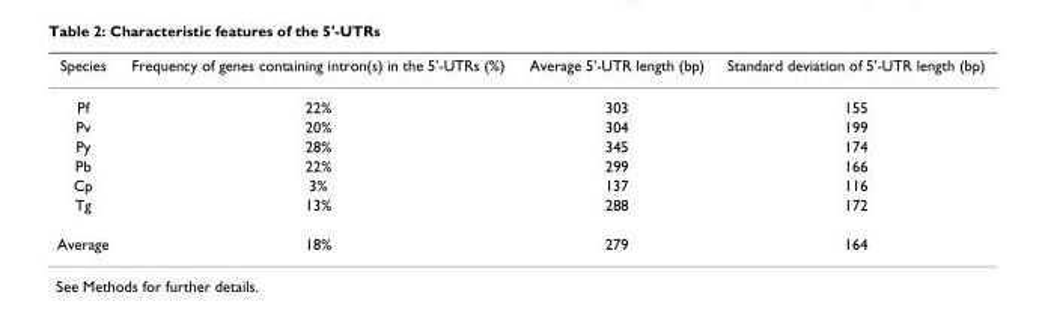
<table><thead><tr><td>Species</td><td>Frequency of genes containing intron(s) in the 5&#x27;-UTRs (%)</td><td>Average 5&#x27;-UTR length (bp)</td><td>Standard deviation of 5&#x27;-UTR length (bp)</td></tr></thead><tbody><tr><td>Pf</td><td>22%</td><td>303</td><td>155</td></tr><tr><td>Pv</td><td>20%</td><td>304</td><td>199</td></tr><tr><td>Py</td><td>28%</td><td>345</td><td>174</td></tr><tr><td>Pb</td><td>22%</td><td>299</td><td>166</td></tr><tr><td>Cp</td><td>3%</td><td>137</td><td>116</td></tr><tr><td>Tg</td><td>13%</td><td>288</td><td>172</td></tr><tr><td>Average</td><td>18%</td><td>279</td><td>164</td></tr></tbody></table>